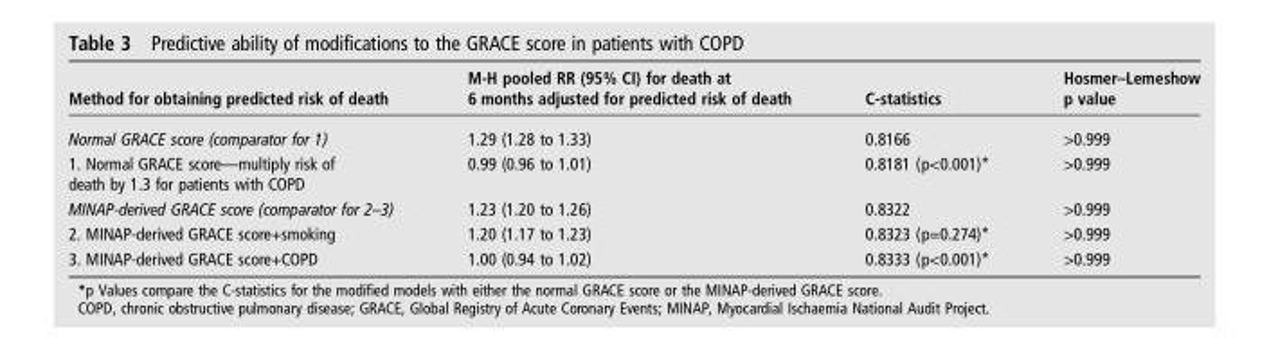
<table><thead><tr><td>Method for obtaining predicted risk of death</td><td>M-H pooled RR (95% CI) for death at 6 months adjusted for predicted risk of death</td><td>C-statistics</td><td>Hosmer–Lemeshow p value</td></tr></thead><tbody><tr><td>Normal GRACE score (comparator for 1)</td><td>1.29 (1.28 to 1.33)</td><td>0.8166</td><td>&gt;0.999</td></tr><tr><td>1. Normal GRACE score—multiply risk of death by 1.3 for patients with COPD</td><td>0.99 (0.96 to 1.01)</td><td>0.8181 (p&lt;0.001)*</td><td>&gt;0.999</td></tr><tr><td>MINAP-derived GRACE score (comparator for 2–3)</td><td>1.23 (1.20 to 1.26)</td><td>0.8322</td><td>&gt;0.999</td></tr><tr><td>2. MINAP-derived GRACE score+smoking</td><td>1.20 (1.17 to 1.23)</td><td>0.8323 (p=0.274)*</td><td>&gt;0.999</td></tr><tr><td>3. MINAP-derived GRACE score+COPD</td><td>1.00 (0.94 to 1.02)</td><td>0.8333 (p&lt;0.001)*</td><td>&gt;0.999</td></tr></tbody></table>